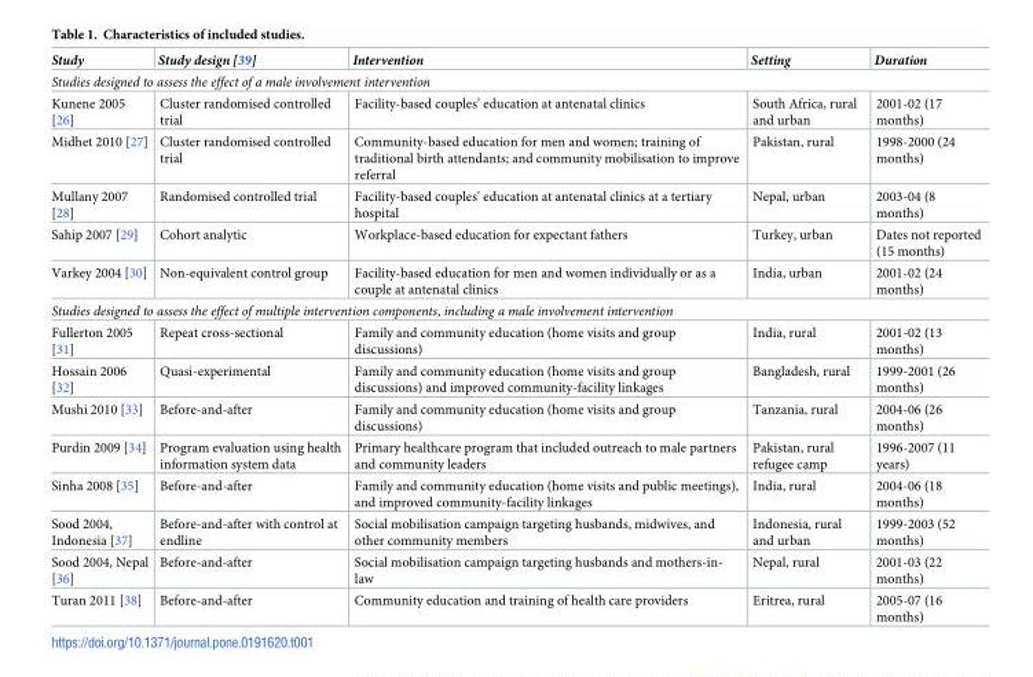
<table><thead><tr><td>Study</td><td>Study design [39]</td><td>Intervention</td><td>Setting</td><td>Duration</td></tr></thead><tbody><tr><td colspan="5">Studies designed to assess the effect of a male involvement intervention</td></tr><tr><td>Kunene 2005 [26]</td><td>Cluster randomised controlled trial</td><td>Facility-based couples’ education at antenatal clinics</td><td>South Africa, rural and urban</td><td>2001-02 (17 months)</td></tr><tr><td>Midhet 2010 [27]</td><td>Cluster randomised controlled trial</td><td>Community-based education for men and women; training of traditional birth attendants; and community mobilisation to improve referral</td><td>Pakistan, rural</td><td>1998-2000 (24 months)</td></tr><tr><td>Mullany 2007 [28]</td><td>Randomised controlled trial</td><td>Facility-based couples’ education at antenatal clinics at a tertiary hospital</td><td>Nepal, urban</td><td>2003-04 (8 months)</td></tr><tr><td>Sahip 2007 [29]</td><td>Cohort analytic</td><td>Workplace-based education for expectant fathers</td><td>Turkey, urban</td><td>Dates not reported (15 months)</td></tr><tr><td>Varkey 2004 [30]</td><td>Non-equivalent control group</td><td>Facility-based education for men and women individually or as a couple at antenatal clinics</td><td>India, urban</td><td>2001-02 (24 months)</td></tr><tr><td colspan="5">Studies designed to assess the effect of multiple intervention components, including a male involvement intervention</td></tr><tr><td>Fullerton 2005 [31]</td><td>Repeat cross-sectional</td><td>Family and community education (home visits and group discussions)</td><td>India, rural</td><td>2001-02 (13 months)</td></tr><tr><td>Hossain 2006 [32]</td><td>Quasi-experimental</td><td>Family and community education (home visits and group discussions) and improved community-facility linkages</td><td>Bangladesh, rural</td><td>1999-2001 (26 months)</td></tr><tr><td>Mushi 2010 [33]</td><td>Before-and-after</td><td>Family and community education (home visits and group discussions)</td><td>Tanzania, rural</td><td>2004-06 (26 months)</td></tr><tr><td>Purdin 2009 [34]</td><td>Program evaluation using health information system data</td><td>Primary healthcare program that included outreach to male partners and community leaders</td><td>Pakistan, rural refugee camp</td><td>1996-2007 (11 years)</td></tr><tr><td>Sinha 2008 [35]</td><td>Before-and-after</td><td>Family and community education (home visits and public meetings), and improved community-facility linkages</td><td>India, rural</td><td>2004-06 (18 months)</td></tr><tr><td>Sood 2004, Indonesia [37]</td><td>Before-and-after with control at endline</td><td>Social mobilisation campaign targeting husbands, midwives, and other community members</td><td>Indonesia, rural and urban</td><td>1999-2003 (52 months)</td></tr><tr><td>Sood 2004, Nepal [36]</td><td>Before-and-after</td><td>Social mobilisation campaign targeting husbands and mothers-in- law</td><td>Nepal, rural</td><td>2001-03 (22 months)</td></tr><tr><td>Turan 2011 [38]</td><td>Before-and-after</td><td>Community education and training of health care providers</td><td>Eritrea, rural</td><td>2005-07 (16 months)</td></tr></tbody></table>